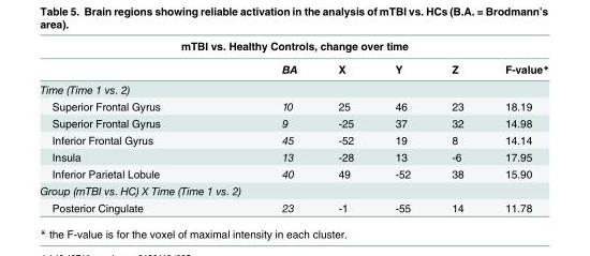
<table><thead><tr><td colspan="6">mTBI vs. Healthy Controls, change over time</td></tr><tr><td></td><td>BA</td><td>X</td><td>Y</td><td>Z</td><td>F-value*</td></tr></thead><tbody><tr><td colspan="6">Time (Time 1 vs. 2)</td></tr><tr><td>Superior Frontal Gyrus</td><td>10</td><td>25</td><td>46</td><td>23</td><td>18.19</td></tr><tr><td>Superior Frontal Gyrus</td><td>9</td><td>-25</td><td>37</td><td>32</td><td>14.98</td></tr><tr><td>Inferior Frontal Gyrus</td><td>45</td><td>-52</td><td>19</td><td>8</td><td>14.14</td></tr><tr><td>Insula</td><td>13</td><td>-28</td><td>13</td><td>-6</td><td>17.95</td></tr><tr><td>Inferior Parietal Lobule</td><td>40</td><td>49</td><td>-52</td><td>38</td><td>15.90</td></tr><tr><td colspan="6">Group (mTBI vs. HC) X Time (Time 1 vs. 2)</td></tr><tr><td>Posterior Cingulate</td><td>23</td><td>-1</td><td>-55</td><td>14</td><td>11.78</td></tr></tbody></table>